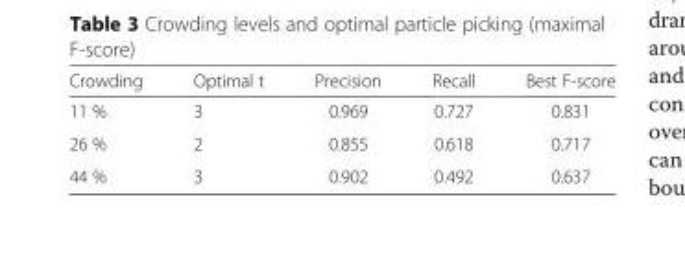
<table><thead><tr><td>Crowding</td><td>Optimal t</td><td>Precision</td><td>Recall</td><td>Best F-score</td></tr></thead><tbody><tr><td>11 %</td><td>3</td><td>0.969</td><td>0.727</td><td>0.831</td></tr><tr><td>26 %</td><td>2</td><td>0.855</td><td>0.618</td><td>0.717</td></tr><tr><td>44 %</td><td>3</td><td>0.902</td><td>0.492</td><td>0.637</td></tr></tbody></table>